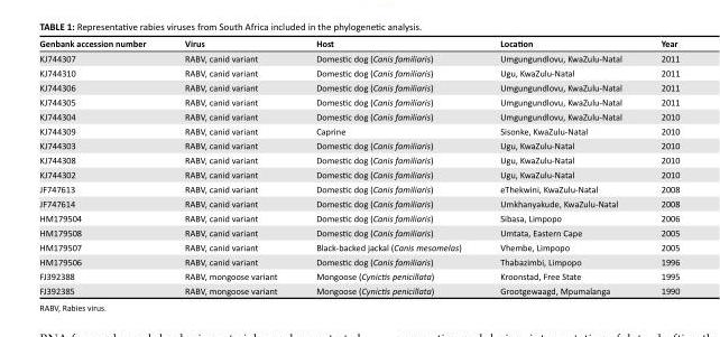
<table><thead><tr><td>Genbank accession number</td><td>Virus</td><td>Host</td><td>Location</td><td>Year</td></tr></thead><tbody><tr><td>KJ744307</td><td>RABV, canid variant</td><td>Domestic dog (Canis familiaris)</td><td>Umgungundlovu, KwaZulu-Natal</td><td>2011</td></tr><tr><td>KJ744310</td><td>RABV, canid variant</td><td>Domestic dog (Canis familiaris)</td><td>Ugu, KwaZulu-Natal</td><td>2011</td></tr><tr><td>KJ744306</td><td>RABV, canid variant</td><td>Domestic dog (Canis familiaris)</td><td>Umgungundlovu, KwaZulu-Natal</td><td>2011</td></tr><tr><td>KJ744305</td><td>RABV, canid variant</td><td>Domestic dog (Canis familiaris)</td><td>Umgungundlovu, KwaZulu-Natal</td><td>2011</td></tr><tr><td>KJ744304</td><td>RABV, canid variant</td><td>Domestic dog (Canis familiaris)</td><td>Umgungundlovu, KwaZulu-Natal</td><td>2010</td></tr><tr><td>KJ744309</td><td>RABV, canid variant</td><td>Caprine</td><td>Sisonke, KwaZulu-Natal</td><td>2010</td></tr><tr><td>KJ744303</td><td>RABV, canid variant</td><td>Domestic dog (Canis familiaris)</td><td>Ugu, KwaZulu-Natal</td><td>2010</td></tr><tr><td>KJ744308</td><td>RABV, canid variant</td><td>Domestic dog (Canis familiaris)</td><td>Ugu, KwaZulu-Natal</td><td>2010</td></tr><tr><td>KJ744302</td><td>RABV, canid variant</td><td>Domestic dog (Canis familiaris)</td><td>Ugu, KwaZulu-Natal</td><td>2010</td></tr><tr><td>JF747613</td><td>RABV, canid variant</td><td>Domestic dog (Canis familiaris)</td><td>eThekwini, KwaZulu-Natal</td><td>2008</td></tr><tr><td>JF747614</td><td>RABV, canid variant</td><td>Domestic dog (Canis familiaris)</td><td>Umkhanyakude, KwaZulu-Natal</td><td>2008</td></tr><tr><td>HM179504</td><td>RABV, canid variant</td><td>Domestic dog (Canis familiaris)</td><td>Sibasa, Limpopo</td><td>2006</td></tr><tr><td>HM179508</td><td>RABV, canid variant</td><td>Domestic dog (Canis familiaris)</td><td>Umtata, Eastern Cape</td><td>2005</td></tr><tr><td>HM179507</td><td>RABV, canid variant</td><td>Black-backed jackal (Canis mesomelas)</td><td>Vhembe, Limpopo</td><td>2005</td></tr><tr><td>HM179506</td><td>RABV, canid variant</td><td>Domestic dog (Canis familiaris)</td><td>Thabazimbi, Limpopo</td><td>1996</td></tr><tr><td>FJ392388</td><td>RABV, mongoose variant</td><td>Mongoose (Cynictis penicillata)</td><td>Kroonstad, Free State</td><td>1995</td></tr><tr><td>FJ392385</td><td>RABV, mongoose variant</td><td>Mongoose (Cynictis penicillata)</td><td>Grootgewaagd, Mpumalanga</td><td>1990</td></tr></tbody></table>